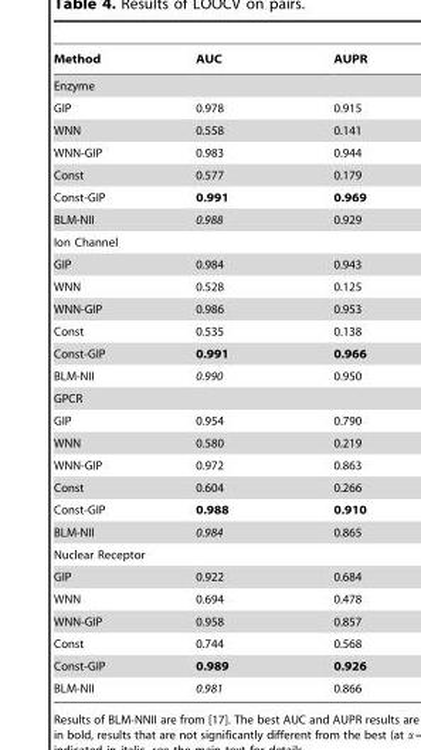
<table><thead><tr><td>Method</td><td>AUC</td><td>AUPR</td></tr></thead><tbody><tr><td colspan="3">Enzyme</td></tr><tr><td>GIP</td><td>0.978</td><td>0.915</td></tr><tr><td>WNN</td><td>0.558</td><td>0.141</td></tr><tr><td>WNN-GIP</td><td>0.983</td><td>0.944</td></tr><tr><td>Const</td><td>0.577</td><td>0.179</td></tr><tr><td>Const-GIP</td><td>0.991</td><td>0.969</td></tr><tr><td>BLM-NII</td><td>0.988</td><td>0.929</td></tr><tr><td colspan="3">Ion Channel</td></tr><tr><td>GIP</td><td>0.984</td><td>0.943</td></tr><tr><td>WNN</td><td>0.528</td><td>0.125</td></tr><tr><td>WNN-GIP</td><td>0.986</td><td>0.953</td></tr><tr><td>Const</td><td>0.535</td><td>0.138</td></tr><tr><td>Const-GIP</td><td>0.991</td><td>0.966</td></tr><tr><td>BLM-NII</td><td>0.990</td><td>0.950</td></tr><tr><td colspan="3">GPCR</td></tr><tr><td>GIP</td><td>0.954</td><td>0.790</td></tr><tr><td>WNN</td><td>0.580</td><td>0.219</td></tr><tr><td>WNN-GIP</td><td>0.972</td><td>0.863</td></tr><tr><td>Const</td><td>0.604</td><td>0.266</td></tr><tr><td>Const-GIP</td><td>0.988</td><td>0.910</td></tr><tr><td>BLM-NII</td><td>0.984</td><td>0.865</td></tr><tr><td colspan="3">Nuclear Receptor</td></tr><tr><td>GIP</td><td>0.922</td><td>0.684</td></tr><tr><td>WNN</td><td>0.694</td><td>0.478</td></tr><tr><td>WNN-GIP</td><td>0.958</td><td>0.857</td></tr><tr><td>Const</td><td>0.744</td><td>0.568</td></tr><tr><td>Const-GIP</td><td>0.989</td><td>0.926</td></tr><tr><td>BLM-NII</td><td>0.981</td><td>0.866</td></tr></tbody></table>